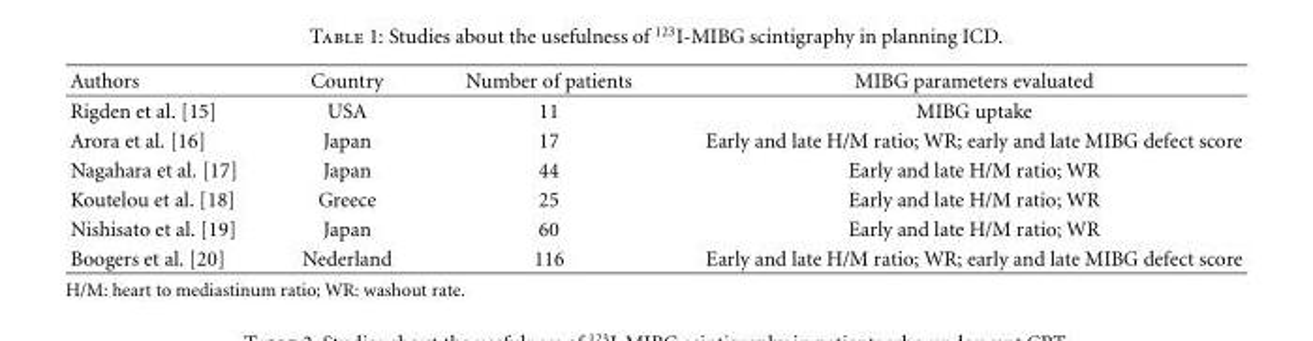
<table><thead><tr><td>Authors</td><td>Country</td><td>Number of patients</td><td>MIBG parameters evaluated</td></tr></thead><tbody><tr><td>Rigden et al. [15]</td><td>USA</td><td>11</td><td>MIBG uptake</td></tr><tr><td>Arora et al. [16]</td><td>Japan</td><td>17</td><td>Early and late H/M ratio; WR; early and late MIBG defect score</td></tr><tr><td>Nagahara et al. [17]</td><td>Japan</td><td>44</td><td>Early and late H/M ratio; WR</td></tr><tr><td>Koutelou et al. [18]</td><td>Greece</td><td>25</td><td>Early and late H/M ratio; WR</td></tr><tr><td>Nishisato et al. [19]</td><td>Japan</td><td>60</td><td>Early and late H/M ratio; WR</td></tr><tr><td>Boogers et al. [20]</td><td>Nederland</td><td>116</td><td>Early and late H/M ratio; WR; early and late MIBG defect score</td></tr></tbody></table>